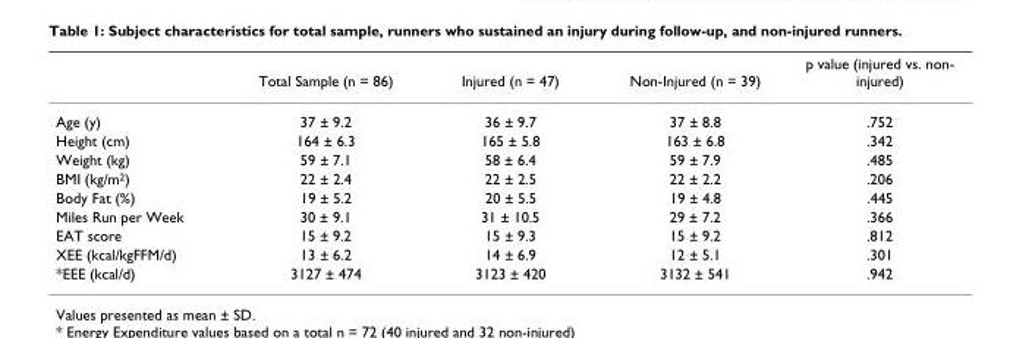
<table><thead><tr><td></td><td>Total Sample (n = 86)</td><td>Injured (n = 47)</td><td>Non-Injured (n = 39)</td><td>p value (injured vs. non- injured)</td></tr></thead><tbody><tr><td>Age (y)</td><td>37 ± 9.2</td><td>36 ± 9.7</td><td>37 ± 8.8</td><td>.752</td></tr><tr><td>Height (cm)</td><td>164 ± 6.3</td><td>165 ± 5.8</td><td>163 ± 6.8</td><td>.342</td></tr><tr><td>Weight (kg)</td><td>59 ± 7.1</td><td>58 ± 6.4</td><td>59 ± 7.9</td><td>.485</td></tr><tr><td>BMI (kg/m<sup>2</sup>)</td><td>22 ± 2.4</td><td>22 ± 2.5</td><td>22 ± 2.2</td><td>.206</td></tr><tr><td>Body Fat (%)</td><td>19 ± 5.2</td><td>20 ± 5.5</td><td>19 ± 4.8</td><td>.445</td></tr><tr><td>Miles Run per Week</td><td>30 ± 9.1</td><td>31 ± 10.5</td><td>29 ± 7.2</td><td>.366</td></tr><tr><td>EAT score</td><td>15 ± 9.2</td><td>15 ± 9.3</td><td>15 ± 9.2</td><td>.812</td></tr><tr><td>XEE (kcal/kgFFM/d)</td><td>13 ± 6.2</td><td>14 ± 6.9</td><td>12 ± 5.1</td><td>.301</td></tr><tr><td>*EEE (kcal/d)</td><td>3127 ± 474</td><td>3123 ± 420</td><td>3132 ± 541</td><td>.942</td></tr></tbody></table>